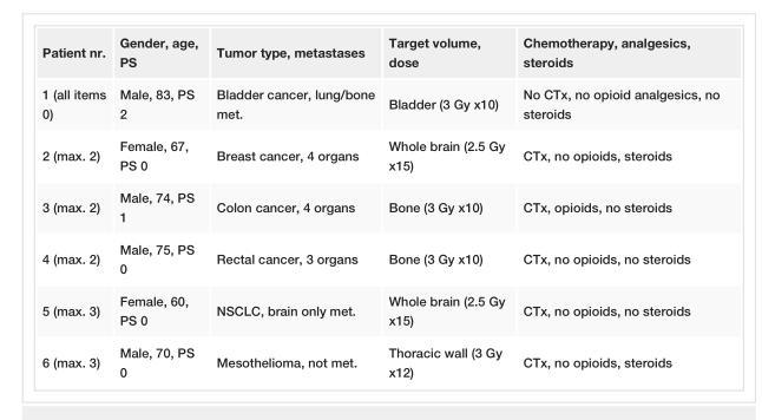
<table><tbody><tr><td>Patient nr.</td><td>Gender, age, PS</td><td>Tumor type, metastases</td><td>Target volume, dose</td><td>Chemotherapy, analgesics, steroids</td></tr><tr><td>1 (all items 0)</td><td>Male, 83, PS 2</td><td>Bladder cancer, lung/bone met.</td><td>Bladder (3 Gy x10)</td><td>No CTx, no opioid analgesics, no steroids</td></tr><tr><td>2 (max. 2)</td><td>Female, 67, PS 0</td><td>Breast cancer, 4 organs</td><td>Whole brain (2.5 Gy x15)</td><td>CTx, no opioids, steroids</td></tr><tr><td>3 (max. 2)</td><td>Male, 74, PS 1</td><td>Colon cancer, 4 organs</td><td>Bone (3 Gy x10)</td><td>CTx, opioids, no steroids</td></tr><tr><td>4 (max. 2)</td><td>Male, 75, PS 0</td><td>Rectal cancer, 3 organs</td><td>Bone (3 Gy x10)</td><td>CTx, no opioids, no steroids</td></tr><tr><td>5 (max. 3)</td><td>Female, 60, PS 0</td><td>NSCLC, brain only met.</td><td>Whole brain (2.5 Gy x15)</td><td>CTx, no opioids, no steroids</td></tr><tr><td>6 (max. 3)</td><td>Male, 70, PS 0</td><td>Mesothelioma, not met.</td><td>Thoracic wall (3 Gy x12)</td><td>CTx, no opioids, steroids</td></tr></tbody></table>